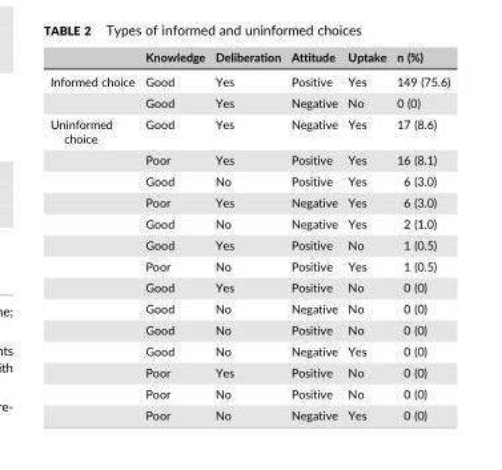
<table><thead><tr><td></td><td>Knowledge</td><td>Deliberation</td><td>Attitude</td><td>Uptake</td><td>n (%)</td></tr></thead><tbody><tr><td rowspan="2">Informed choice</td><td>Good</td><td>Yes</td><td>Positive</td><td>Yes</td><td>149 (75.6)</td></tr><tr><td>Good</td><td>Yes</td><td>Negative</td><td>No</td><td>0 (0)</td></tr><tr><td rowspan="14">Uninformed choice</td><td>Good</td><td>Yes</td><td>Negative</td><td>Yes</td><td>17 (8.6)</td></tr><tr><td>Poor</td><td>Yes</td><td>Positive</td><td>Yes</td><td>16 (8.1)</td></tr><tr><td>Good</td><td>No</td><td>Positive</td><td>Yes</td><td>6 (3.0)</td></tr><tr><td>Poor</td><td>Yes</td><td>Negative</td><td>Yes</td><td>6 (3.0)</td></tr><tr><td>Good</td><td>No</td><td>Negative</td><td>Yes</td><td>2 (1.0)</td></tr><tr><td>Good</td><td>Yes</td><td>Positive</td><td>No</td><td>1 (0.5)</td></tr><tr><td>Poor</td><td>No</td><td>Positive</td><td>Yes</td><td>1 (0.5)</td></tr><tr><td>Good</td><td>Yes</td><td>Positive</td><td>No</td><td>0 (0)</td></tr><tr><td>Good</td><td>No</td><td>Negative</td><td>No</td><td>0 (0)</td></tr><tr><td>Good</td><td>No</td><td>Positive</td><td>No</td><td>0 (0)</td></tr><tr><td>Good</td><td>No</td><td>Negative</td><td>Yes</td><td>0 (0)</td></tr><tr><td>Poor</td><td>Yes</td><td>Positive</td><td>No</td><td>0 (0)</td></tr><tr><td>Poor</td><td>No</td><td>Positive</td><td>No</td><td>0 (0)</td></tr><tr><td>Poor</td><td>No</td><td>Negative</td><td>Yes</td><td>0 (0)</td></tr></tbody></table>